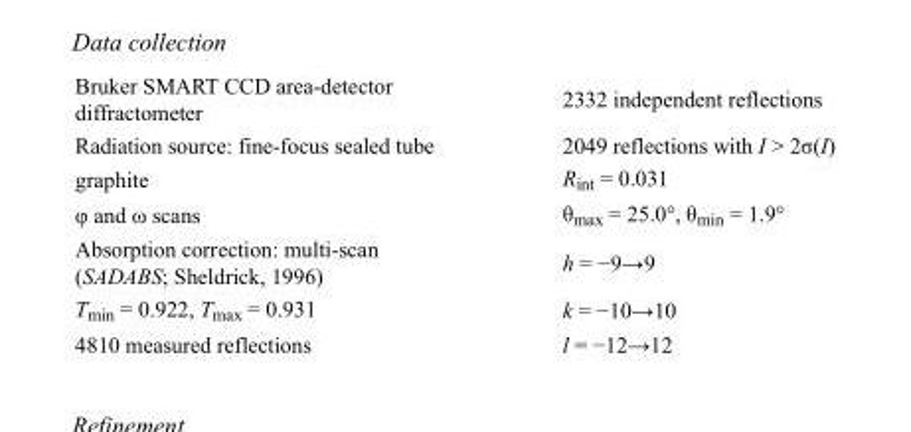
<table><tbody><tr><td>Bruker SMART CCD area-detector diffractometer</td><td>2332 independent reflections</td></tr><tr><td>Radiation source: fine-focus sealed tube</td><td>2049 reflections with I &gt; 2σ(I)</td></tr><tr><td>graphite</td><td>R<sub>int</sub> = 0.031</td></tr><tr><td>φ and ω scans</td><td>θ<sub>max</sub> = 25.0°, θ<sub>min</sub> = 1.9°</td></tr><tr><td>Absorption correction: multi-scan (SADABS; Sheldrick, 1996)</td><td>h = −9→9</td></tr><tr><td>T<sub>min</sub> = 0.922, T<sub>max</sub> = 0.931</td><td>k = −10→10</td></tr><tr><td>4810 measured reflections</td><td>l = −12→12</td></tr></tbody></table>